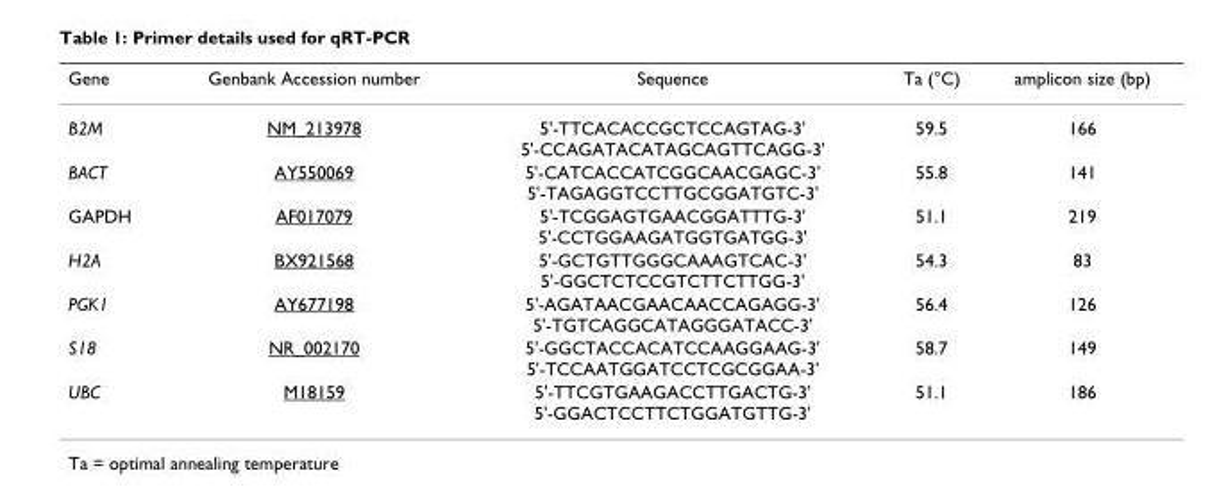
<table><thead><tr><td>Gene</td><td>Genbank Accession number</td><td>Sequence</td><td>Ta (°C)</td><td>amplicon size (bp)</td></tr></thead><tbody><tr><td>B2M</td><td>NM_213978</td><td>5&#x27;-TTCACACCGCTCCAGTAG-3&#x27; 5&#x27;-CCAGATACATAGCAGTTCAGG-3&#x27;</td><td>59.5</td><td>166</td></tr><tr><td>BACT</td><td>AY550069</td><td>5&#x27;-CATCACCATCGGCAACGAGC-3&#x27; 5&#x27;-TAGAGGTCCTTGCGGATGTC-3&#x27;</td><td>55.8</td><td>141</td></tr><tr><td>GAPDH</td><td>AF017079</td><td>5&#x27;-TCGGAGTGAACGGATTTG-3&#x27; 5&#x27;-CCTGGAAGATGGTGATGG-3&#x27;</td><td>51.1</td><td>219</td></tr><tr><td>H2A</td><td>BX921568</td><td>5&#x27;-GCTGTTGGGCAAAGTCAC-3&#x27; 5&#x27;-GGCTCTCCGTCTTCTTGG-3&#x27;</td><td>54.3</td><td>83</td></tr><tr><td>PGK1</td><td>AY677198</td><td>5&#x27;-AGATAACGAACAACCAGAGG-3&#x27; 5&#x27;-TGTCAGGCATAGGGATACC-3&#x27;</td><td>56.4</td><td>126</td></tr><tr><td>S18</td><td>NR_002170</td><td>5&#x27;-GGCTACCACATCCAAGGAAG-3&#x27; 5&#x27;-TCCAATGGATCCTCGCGGAA-3&#x27;</td><td>58.7</td><td>149</td></tr><tr><td>UBC</td><td>M18159</td><td>5&#x27;-TTCGTGAAGACCTTGACTG-3&#x27; 5&#x27;-GGACTCCTTCTGGATGTTG-3&#x27;</td><td>51.1</td><td>186</td></tr></tbody></table>